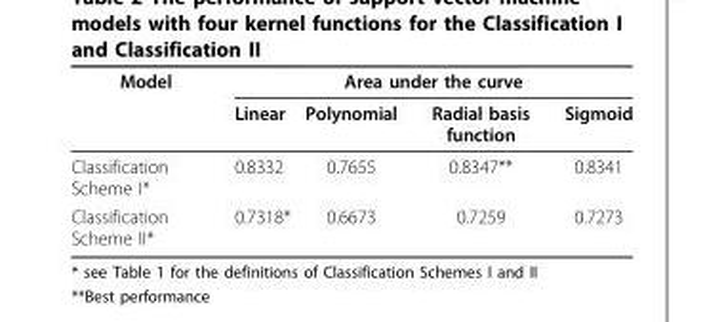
<table><thead><tr><td rowspan="2">Model</td><td colspan="4">Area under the curve</td></tr><tr><td>Linear</td><td>Polynomial</td><td>Radial basis function</td><td>Sigmoid</td></tr></thead><tbody><tr><td>Classification Scheme I*</td><td>0.8332</td><td>0.7655</td><td>0.8347**</td><td>0.8341</td></tr><tr><td>Classification Scheme II*</td><td>0.7318*</td><td>0.6673</td><td>0.7259</td><td>0.7273</td></tr></tbody></table>